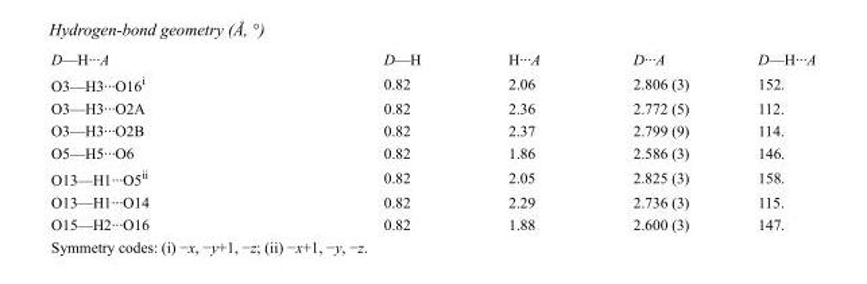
<table><tbody><tr><td>D—H···A</td><td>D—H</td><td>H···A</td><td>D···A</td><td>D—H···A</td></tr><tr><td>O3—H3···O16<sup>i</sup></td><td>0.82</td><td>2.06</td><td>2.806 (3)</td><td>152.</td></tr><tr><td>O3—H3···O2A</td><td>0.82</td><td>2.36</td><td>2.772 (5)</td><td>112.</td></tr><tr><td>O3—H3···O2B</td><td>0.82</td><td>2.37</td><td>2.799 (9)</td><td>114.</td></tr><tr><td>O5—H5···O6</td><td>0.82</td><td>1.86</td><td>2.586 (3)</td><td>146.</td></tr><tr><td>O13—H1···O5<sup>ii</sup></td><td>0.82</td><td>2.05</td><td>2.825 (3)</td><td>158.</td></tr><tr><td>O13—H1···O14</td><td>0.82</td><td>2.29</td><td>2.736 (3)</td><td>115.</td></tr><tr><td>O15—H2···O16</td><td>0.82</td><td>1.88</td><td>2.600 (3)</td><td>147.</td></tr></tbody></table>